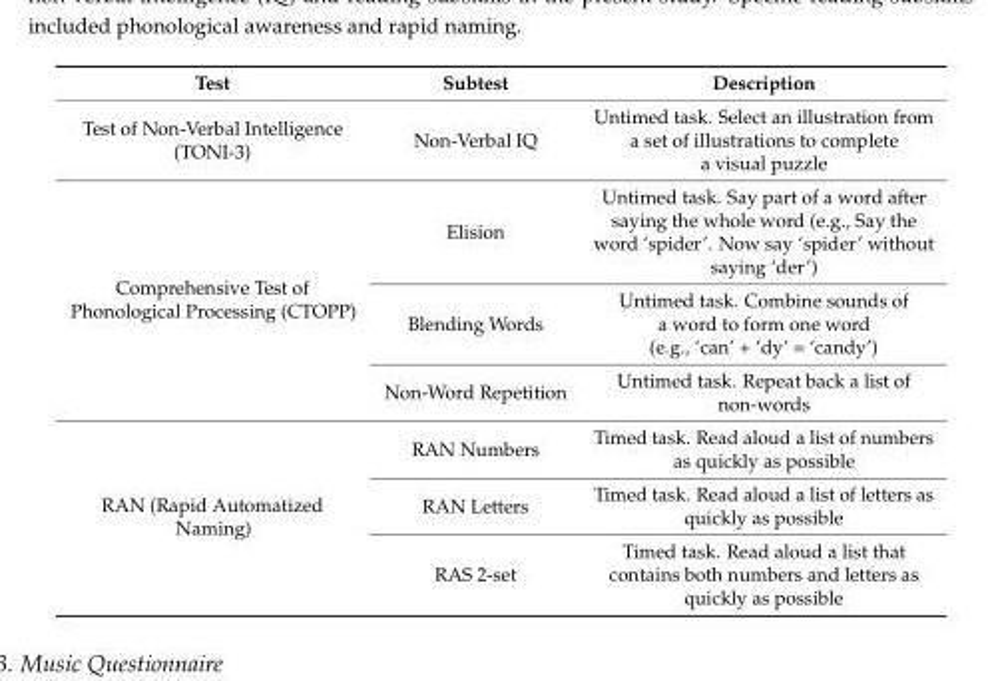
<table><thead><tr><td>Test</td><td>Subtest</td><td>Description</td></tr></thead><tbody><tr><td>Test of Non-Verbal Intelligence (TONI-3)</td><td>Non-Verbal IQ</td><td>Untimed task. Select an illustration from a set of illustrations to complete a visual puzzle</td></tr><tr><td rowspan="3">Comprehensive Test of Phonological Processing (CTOPP)</td><td>Elision</td><td>Untimed task. Say part of a word after saying the whole word (e.g., Say the word ‘spider’. Now say ‘spider’ without saying ‘der’)</td></tr><tr><td>Blending Words</td><td>Untimed task. Combine sounds of a word to form one word (e.g., ‘can’ + ‘dy’ = ‘candy’)</td></tr><tr><td>Non-Word Repetition</td><td>Untimed task. Repeat back a list of non-words</td></tr><tr><td rowspan="3">RAN (Rapid Automatized Naming)</td><td>RAN Numbers</td><td>Timed task. Read aloud a list of numbers as quickly as possible</td></tr><tr><td>RAN Letters</td><td>Timed task. Read aloud a list of letters as quickly as possible</td></tr><tr><td>RAS 2-set</td><td>Timed task. Read aloud a list that contains both numbers and letters as quickly as possible</td></tr></tbody></table>